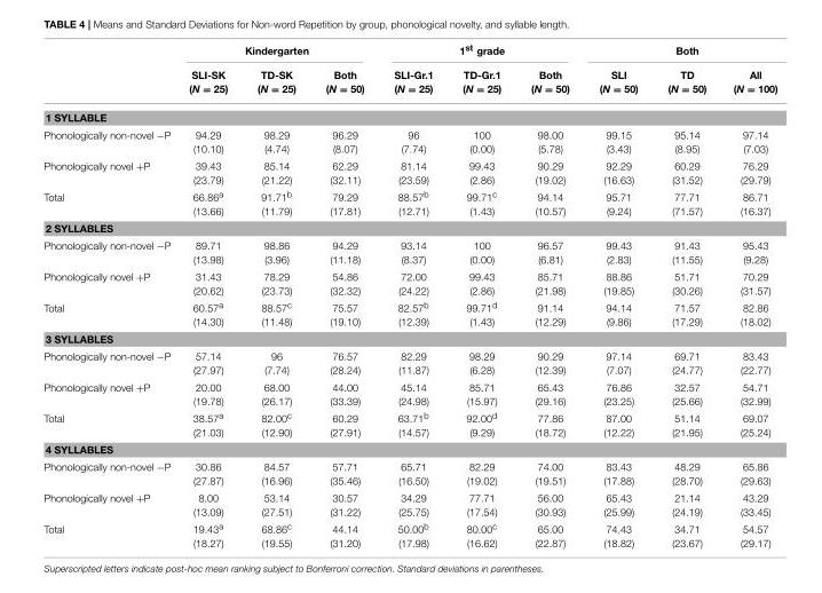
<table><thead><tr><td rowspan="2"></td><td colspan="3">Kindergarten</td><td colspan="3">1<sup>st</sup> grade</td><td colspan="3">Both</td></tr><tr><td>SLI-SK (N = 25)</td><td>TD-SK (N = 25)</td><td>Both (N = 50)</td><td>SLI-Gr.1 (N = 25)</td><td>TD-Gr.1 (N = 25)</td><td>Both (N = 50)</td><td>SLI (N = 50)</td><td>TD (N = 50)</td><td>All (N = 100)</td></tr></thead><tbody><tr><td colspan="10">1 SYLLABLE</td></tr><tr><td>Phonologically non-novel −P</td><td>94.29 (10.10)</td><td>98.29 (4.74)</td><td>96.29 (8.07)</td><td>96 (7.74)</td><td>100 (0.00)</td><td>98.00 (5.78)</td><td>99.15 (3.43)</td><td>95.14 (8.95)</td><td>97.14 (7.03)</td></tr><tr><td>Phonologically novel +P</td><td>39.43 (23.79)</td><td>85.14 (21.22)</td><td>62.29 (32.11)</td><td>81.14 (23.59)</td><td>99.43 (2.86)</td><td>90.29 (19.02)</td><td>92.29 (16.63)</td><td>60.29 (31.52)</td><td>76.29 (29.79)</td></tr><tr><td>Total</td><td>66.86<sup>a</sup> (13.66)</td><td>91.71<sup>b</sup> (11.79)</td><td>79.29 (17.81)</td><td>88.57<sup>b</sup> (12.71)</td><td>99.71<sup>c</sup> (1.43)</td><td>94.14 (10.57)</td><td>95.71 (9.24)</td><td>77.71 (71.57)</td><td>86.71 (16.37)</td></tr><tr><td colspan="10">2 SYLLABLES</td></tr><tr><td>Phonologically non-novel −P</td><td>89.71 (13.98)</td><td>98.86 (3.96)</td><td>94.29 (11.18)</td><td>93.14 (8.37)</td><td>100 (0.00)</td><td>96.57 (6.81)</td><td>99.43 (2.83)</td><td>91.43 (11.55)</td><td>95.43 (9.28)</td></tr><tr><td>Phonologically novel +P</td><td>31.43 (20.62)</td><td>78.29 (23.73)</td><td>54.86 (32.32)</td><td>72.00 (24.22)</td><td>99.43 (2.86)</td><td>85.71 (21.98)</td><td>88.86 (19.85)</td><td>51.71 (30.26)</td><td>70.29 (31.57)</td></tr><tr><td>Total</td><td>60.57<sup>a</sup> (14.30)</td><td>88.57<sup>c</sup> (11.48)</td><td>75.57 (19.10)</td><td>82.57<sup>b</sup> (12.39)</td><td>99.71<sup>d</sup> (1.43)</td><td>91.14 (12.29)</td><td>94.14 (9.86)</td><td>71.57 (17.29)</td><td>82.86 (18.02)</td></tr><tr><td colspan="10">3 SYLLABLES</td></tr><tr><td>Phonologically non-novel −P</td><td>57.14 (27.97)</td><td>96 (7.74)</td><td>76.57 (28.24)</td><td>82.29 (11.87)</td><td>98.29 (6.28)</td><td>90.29 (12.39)</td><td>97.14 (7.07)</td><td>69.71 (24.77)</td><td>83.43 (22.77)</td></tr><tr><td>Phonologically novel +P</td><td>20.00 (19.78)</td><td>68.00 (26.17)</td><td>44.00 (33.39)</td><td>45.14 (24.98)</td><td>85.71 (15.97)</td><td>65.43 (29.16)</td><td>76.86 (23.25)</td><td>32.57 (25.66)</td><td>54.71 (32.99)</td></tr><tr><td>Total</td><td>38.57<sup>a</sup> (21.03)</td><td>82.00<sup>c</sup> (12.90)</td><td>60.29 (27.91)</td><td>63.71<sup>b</sup> (14.57)</td><td>92.00<sup>d</sup> (9.29)</td><td>77.86 (18.72)</td><td>87.00 (12.22)</td><td>51.14 (21.95)</td><td>69.07 (25.24)</td></tr><tr><td colspan="10">4 SYLLABLES</td></tr><tr><td>Phonologically non-novel −P</td><td>30.86 (27.87)</td><td>84.57 (16.96)</td><td>57.71 (35.46)</td><td>65.71 (16.50)</td><td>82.29 (19.02)</td><td>74.00 (19.51)</td><td>83.43 (17.88)</td><td>48.29 (28.70)</td><td>65.86 (29.63)</td></tr><tr><td>Phonologically novel +P</td><td>8.00 (13.09)</td><td>53.14 (27.51)</td><td>30.57 (31.22)</td><td>34.29 (25.75)</td><td>77.71 (17.54)</td><td>56.00 (30.93)</td><td>65.43 (25.99)</td><td>21.14 (24.19)</td><td>43.29 (33.45)</td></tr><tr><td>Total</td><td>19.43<sup>a</sup> (18.27)</td><td>68.86<sup>c</sup> (19.55)</td><td>44.14 (31.20)</td><td>50.00<sup>b</sup> (17.98)</td><td>80.00<sup>c</sup> (16.62)</td><td>65.00 (22.87)</td><td>74.43 (18.82)</td><td>34.71 (23.67)</td><td>54.57 (29.17)</td></tr></tbody></table>